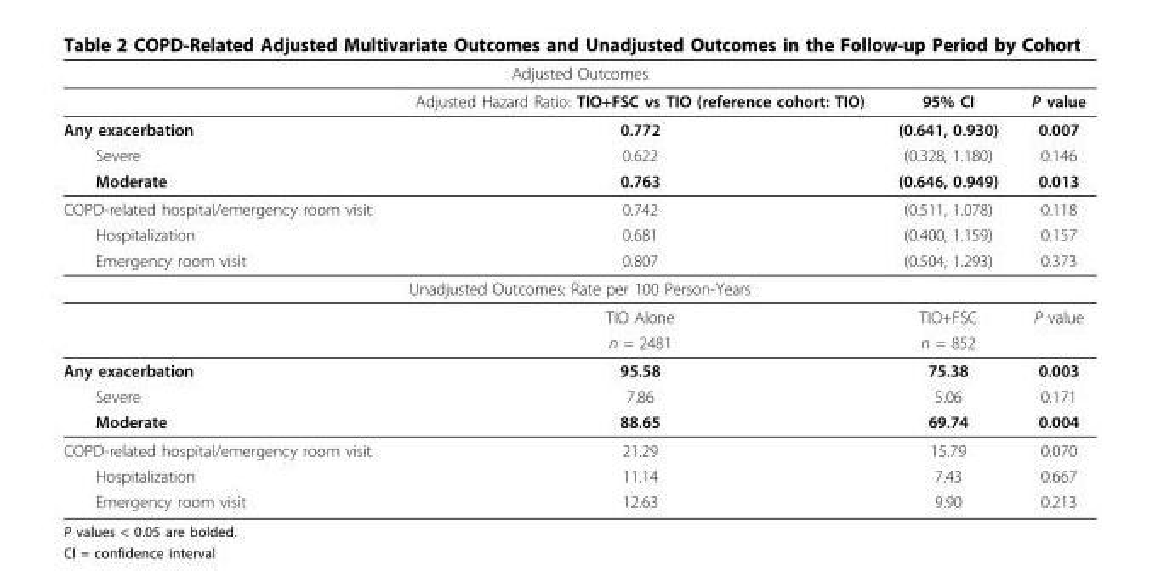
<table><thead><tr><td colspan="4">Adjusted Outcomes</td></tr><tr><td></td><td>Adjusted Hazard Ratio: TIO+FSC vs TIO (reference cohort: TIO)</td><td>95% CI</td><td>P value</td></tr></thead><tbody><tr><td>Any exacerbation</td><td>0.772</td><td>(0.641, 0.930)</td><td>0.007</td></tr><tr><td>Severe</td><td>0.622</td><td>(0.328, 1.180)</td><td>0.146</td></tr><tr><td>Moderate</td><td>0.763</td><td>(0.646, 0.949)</td><td>0.013</td></tr><tr><td>COPD-related hospital/emergency room visit</td><td>0.742</td><td>(0.511, 1.078)</td><td>0.118</td></tr><tr><td>Hospitalization</td><td>0.681</td><td>(0.400, 1.159)</td><td>0.157</td></tr><tr><td>Emergency room visit</td><td>0.807</td><td>(0.504, 1.293)</td><td>0.373</td></tr><tr><td colspan="4">Unadjusted Outcomes: Rate per 100 Person-Years</td></tr><tr><td></td><td>TIO Alone</td><td>TIO+FSC</td><td>P value</td></tr><tr><td></td><td>n = 2481</td><td>n = 852</td><td></td></tr><tr><td>Any exacerbation</td><td>95.58</td><td>75.38</td><td>0.003</td></tr><tr><td>Severe</td><td>7.86</td><td>5.06</td><td>0.171</td></tr><tr><td>Moderate</td><td>88.65</td><td>69.74</td><td>0.004</td></tr><tr><td>COPD-related hospital/emergency room visit</td><td>21.29</td><td>15.79</td><td>0.070</td></tr><tr><td>Hospitalization</td><td>11.14</td><td>7.43</td><td>0.667</td></tr><tr><td>Emergency room visit</td><td>12.63</td><td>9.90</td><td>0.213</td></tr></tbody></table>